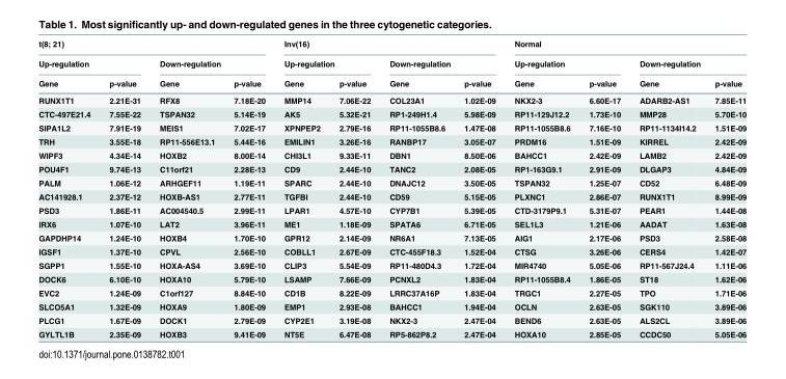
<table><thead><tr><td colspan="4">t(8; 21)</td><td colspan="4">Inv(16)</td><td colspan="4">Normal</td></tr><tr><td colspan="2">Up-regulation</td><td colspan="2">Down-regulation</td><td colspan="2">Up-regulation</td><td colspan="2">Down-regulation</td><td colspan="2">Up-regulation</td><td colspan="2">Down-regulation</td></tr><tr><td>Gene</td><td>p-value</td><td>Gene</td><td>p-value</td><td>Gene</td><td>p-value</td><td>Gene</td><td>p-value</td><td>Gene</td><td>p-value</td><td>Gene</td><td>p-value</td></tr></thead><tbody><tr><td>RUNX1T1</td><td>2.21E-31</td><td>RFX8</td><td>7.18E-20</td><td>MMP14</td><td>7.06E-22</td><td>COL23A1</td><td>1.02E-09</td><td>NKX2-3</td><td>6.60E-17</td><td>ADARB2-AS1</td><td>7.85E-11</td></tr><tr><td>CTC-497E21.4</td><td>7.55E-22</td><td>TSPAN32</td><td>5.14E-19</td><td>AK5</td><td>5.32E-21</td><td>RP1-249H1.4</td><td>5.98E-09</td><td>RP11-129J12.2</td><td>1.73E-10</td><td>MMP28</td><td>5.70E-10</td></tr><tr><td>SIPA1L2</td><td>7.91E-19</td><td>MEIS1</td><td>7.02E-17</td><td>XPNPEP2</td><td>2.79E-16</td><td>RP11-1055B8.6</td><td>1.47E-08</td><td>RP11-1055B8.6</td><td>7.16E-10</td><td>RP11-1134I14.2</td><td>1.51E-09</td></tr><tr><td>TRH</td><td>3.55E-18</td><td>RP11-556E13.1</td><td>5.44E-16</td><td>EMILIN1</td><td>3.26E-16</td><td>RANBP17</td><td>3.05E-07</td><td>PRDM16</td><td>1.51E-09</td><td>KIRREL</td><td>2.42E-09</td></tr><tr><td>WIPF3</td><td>4.34E-14</td><td>HOXB2</td><td>8.00E-14</td><td>CHI3L1</td><td>9.33E-11</td><td>DBN1</td><td>8.50E-06</td><td>BAHCC1</td><td>2.42E-09</td><td>LAMB2</td><td>2.42E-09</td></tr><tr><td>POU4F1</td><td>9.74E-13</td><td>C11orf21</td><td>2.28E-13</td><td>CD9</td><td>2.44E-10</td><td>TANC2</td><td>2.08E-05</td><td>RP1-163G9.1</td><td>2.91E-09</td><td>DLGAP3</td><td>4.84E-09</td></tr><tr><td>PALM</td><td>1.06E-12</td><td>ARHGEF11</td><td>1.19E-11</td><td>SPARC</td><td>2.44E-10</td><td>DNAJC12</td><td>3.50E-05</td><td>TSPAN32</td><td>1.25E-07</td><td>CD52</td><td>6.48E-09</td></tr><tr><td>AC141928.1</td><td>2.37E-12</td><td>HOXB-AS1</td><td>2.77E-11</td><td>TGFBI</td><td>2.44E-10</td><td>CD59</td><td>5.15E-05</td><td>PLXNC1</td><td>2.86E-07</td><td>RUNX1T1</td><td>8.99E-09</td></tr><tr><td>PSD3</td><td>1.86E-11</td><td>AC004540.5</td><td>2.99E-11</td><td>LPAR1</td><td>4.57E-10</td><td>CYP7B1</td><td>5.39E-05</td><td>CTD-3179P9.1</td><td>5.31E-07</td><td>PEAR1</td><td>1.44E-08</td></tr><tr><td>IRX6</td><td>1.07E-10</td><td>LAT2</td><td>3.96E-11</td><td>ME1</td><td>1.18E-09</td><td>SPATA6</td><td>6.71E-05</td><td>SEL1L3</td><td>1.21E-06</td><td>AADAT</td><td>1.63E-08</td></tr><tr><td>GAPDHP14</td><td>1.24E-10</td><td>HOXB4</td><td>1.70E-10</td><td>GPR12</td><td>2.14E-09</td><td>NR6A1</td><td>7.13E-05</td><td>AIG1</td><td>2.17E-06</td><td>PSD3</td><td>2.58E-08</td></tr><tr><td>IGSF1</td><td>1.37E-10</td><td>CPVL</td><td>2.56E-10</td><td>COBLL1</td><td>2.67E-09</td><td>CTC-455F18.3</td><td>1.52E-04</td><td>CTSG</td><td>3.26E-06</td><td>CERS4</td><td>1.42E-07</td></tr><tr><td>SGPP1</td><td>1.55E-10</td><td>HOXA-AS4</td><td>3.69E-10</td><td>CLIP3</td><td>5.54E-09</td><td>RP11-480D4.3</td><td>1.72E-04</td><td>MIR4740</td><td>5.05E-06</td><td>RP11-567J24.4</td><td>1.11E-06</td></tr><tr><td>DOCK6</td><td>6.10E-10</td><td>HOXA10</td><td>5.79E-10</td><td>LSAMP</td><td>7.66E-09</td><td>PCNXL2</td><td>1.83E-04</td><td>RP11-1055B8.4</td><td>1.86E-05</td><td>ST18</td><td>1.62E-06</td></tr><tr><td>EVC2</td><td>1.24E-09</td><td>C1orf127</td><td>8.84E-10</td><td>CD1B</td><td>8.22E-09</td><td>LRRC37A16P</td><td>1.83E-04</td><td>TRGC1</td><td>2.27E-05</td><td>TPO</td><td>1.71E-06</td></tr><tr><td>SLCO5A1</td><td>1.32E-09</td><td>HOXA9</td><td>1.80E-09</td><td>EMP1</td><td>2.93E-08</td><td>BAHCC1</td><td>1.94E-04</td><td>OCLN</td><td>2.63E-05</td><td>SGK110</td><td>3.89E-06</td></tr><tr><td>PLCG1</td><td>1.67E-09</td><td>DOCK1</td><td>2.79E-09</td><td>CYP2E1</td><td>3.19E-08</td><td>NKX2-3</td><td>2.47E-04</td><td>BEND6</td><td>2.63E-05</td><td>ALS2CL</td><td>3.89E-06</td></tr><tr><td>GYLTL1B</td><td>2.35E-09</td><td>HOXB3</td><td>9.41E-09</td><td>NT5E</td><td>6.47E-08</td><td>RP5-862P8.2</td><td>2.47E-04</td><td>HOXA10</td><td>2.85E-05</td><td>CCDC50</td><td>5.05E-06</td></tr></tbody></table>